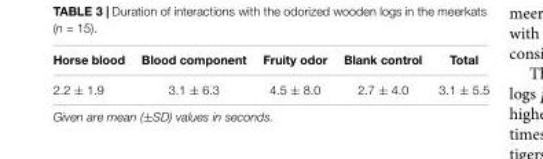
<table><thead><tr><td>Horse blood</td><td>Blood component</td><td>Fruity odor</td><td>Blank control</td><td>Total</td></tr></thead><tbody><tr><td>2.2 ± 1.9</td><td>3.1 ± 6.3</td><td>4.5 ± 8.0</td><td>2.7 ± 4.0</td><td>3.1 ± 5.5</td></tr></tbody></table>